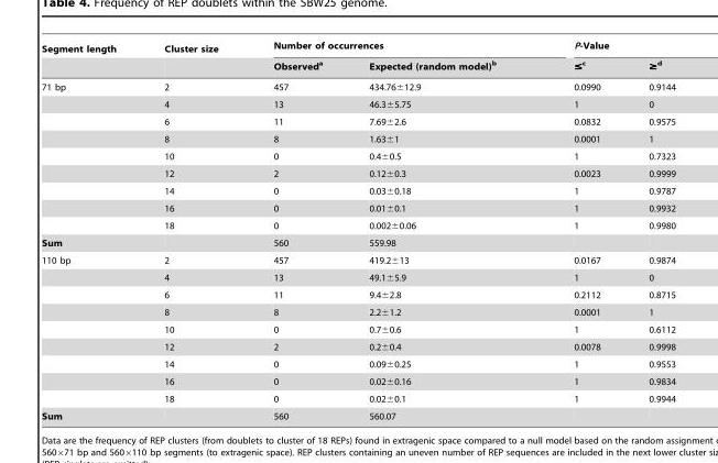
<table><thead><tr><td rowspan="2">Segment length</td><td rowspan="2">Cluster size</td><td colspan="2">Number of occurrences</td><td colspan="2">P-Value</td></tr><tr><td>Observed<sup>a</sup></td><td>Expected (random model)<sup>b</sup></td><td>≤<sup>c</sup></td><td>≥<sup>d</sup></td></tr></thead><tbody><tr><td rowspan="9">71 bp</td><td>2</td><td>457</td><td>434.76±12.9</td><td>0.0990</td><td>0.9144</td></tr><tr><td>4</td><td>13</td><td>46.3±5.75</td><td>1</td><td>0</td></tr><tr><td>6</td><td>11</td><td>7.69±2.6</td><td>0.0832</td><td>0.9575</td></tr><tr><td>8</td><td>8</td><td>1.63±1</td><td>0.0001</td><td>1</td></tr><tr><td>10</td><td>0</td><td>0.4±0.5</td><td>1</td><td>0.7323</td></tr><tr><td>12</td><td>2</td><td>0.12±0.3</td><td>0.0023</td><td>0.9999</td></tr><tr><td>14</td><td>0</td><td>0.03±0.18</td><td>1</td><td>0.9787</td></tr><tr><td>16</td><td>0</td><td>0.01±0.1</td><td>1</td><td>0.9932</td></tr><tr><td>18</td><td>0</td><td>0.002±0.06</td><td>1</td><td>0.9980</td></tr><tr><td>Sum</td><td></td><td>560</td><td>559.98</td><td></td><td></td></tr><tr><td rowspan="9">110 bp</td><td>2</td><td>457</td><td>419.2±13</td><td>0.0167</td><td>0.9874</td></tr><tr><td>4</td><td>13</td><td>49.1±5.9</td><td>1</td><td>0</td></tr><tr><td>6</td><td>11</td><td>9.4±2.8</td><td>0.2112</td><td>0.8715</td></tr><tr><td>8</td><td>8</td><td>2.2±1.2</td><td>0.0001</td><td>1</td></tr><tr><td>10</td><td>0</td><td>0.7±0.6</td><td>1</td><td>0.6112</td></tr><tr><td>12</td><td>2</td><td>0.2±0.4</td><td>0.0078</td><td>0.9998</td></tr><tr><td>14</td><td>0</td><td>0.09±0.25</td><td>1</td><td>0.9553</td></tr><tr><td>16</td><td>0</td><td>0.02±0.16</td><td>1</td><td>0.9834</td></tr><tr><td>18</td><td>0</td><td>0.02±0.1</td><td>1</td><td>0.9944</td></tr><tr><td>Sum</td><td></td><td>560</td><td>560.07</td><td></td><td></td></tr></tbody></table>